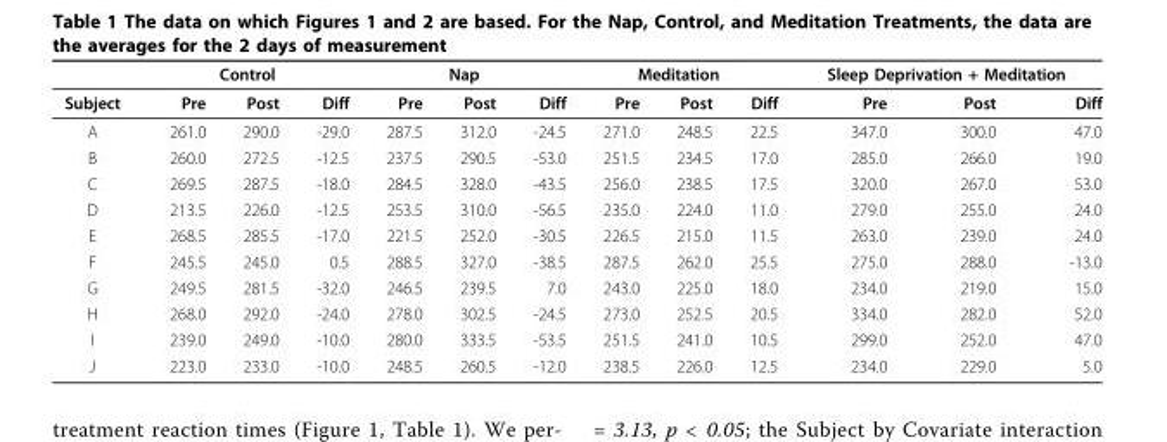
<table><thead><tr><td rowspan="2">Subject</td><td colspan="3">Control</td><td colspan="3">Nap</td><td colspan="3">Meditation</td><td colspan="3">Sleep Deprivation + Meditation</td></tr><tr><td>Pre</td><td>Post</td><td>Diff</td><td>Pre</td><td>Post</td><td>Diff</td><td>Pre</td><td>Post</td><td>Diff</td><td>Pre</td><td>Post</td><td>Diff</td></tr></thead><tbody><tr><td>A</td><td>261.0</td><td>290.0</td><td>-29.0</td><td>287.5</td><td>312.0</td><td>-24.5</td><td>271.0</td><td>248.5</td><td>22.5</td><td>347.0</td><td>300.0</td><td>47.0</td></tr><tr><td>B</td><td>260.0</td><td>272.5</td><td>-12.5</td><td>237.5</td><td>290.5</td><td>-53.0</td><td>251.5</td><td>234.5</td><td>17.0</td><td>285.0</td><td>266.0</td><td>19.0</td></tr><tr><td>C</td><td>269.5</td><td>287.5</td><td>-18.0</td><td>284.5</td><td>328.0</td><td>-43.5</td><td>256.0</td><td>238.5</td><td>17.5</td><td>320.0</td><td>267.0</td><td>53.0</td></tr><tr><td>D</td><td>213.5</td><td>226.0</td><td>-12.5</td><td>253.5</td><td>310.0</td><td>-56.5</td><td>235.0</td><td>224.0</td><td>11.0</td><td>279.0</td><td>255.0</td><td>24.0</td></tr><tr><td>E</td><td>268.5</td><td>285.5</td><td>-17.0</td><td>221.5</td><td>252.0</td><td>-30.5</td><td>226.5</td><td>215.0</td><td>11.5</td><td>263.0</td><td>239.0</td><td>24.0</td></tr><tr><td>F</td><td>245.5</td><td>245.0</td><td>0.5</td><td>288.5</td><td>327.0</td><td>-38.5</td><td>287.5</td><td>262.0</td><td>25.5</td><td>275.0</td><td>288.0</td><td>-13.0</td></tr><tr><td>G</td><td>249.5</td><td>281.5</td><td>-32.0</td><td>246.5</td><td>239.5</td><td>7.0</td><td>243.0</td><td>225.0</td><td>18.0</td><td>234.0</td><td>219.0</td><td>15.0</td></tr><tr><td>H</td><td>268.0</td><td>292.0</td><td>-24.0</td><td>278.0</td><td>302.5</td><td>-24.5</td><td>273.0</td><td>252.5</td><td>20.5</td><td>334.0</td><td>282.0</td><td>52.0</td></tr><tr><td>I</td><td>239.0</td><td>249.0</td><td>-10.0</td><td>280.0</td><td>333.5</td><td>-53.5</td><td>251.5</td><td>241.0</td><td>10.5</td><td>299.0</td><td>252.0</td><td>47.0</td></tr><tr><td>J</td><td>223.0</td><td>233.0</td><td>-10.0</td><td>248.5</td><td>260.5</td><td>-12.0</td><td>238.5</td><td>226.0</td><td>12.5</td><td>234.0</td><td>229.0</td><td>5.0</td></tr></tbody></table>